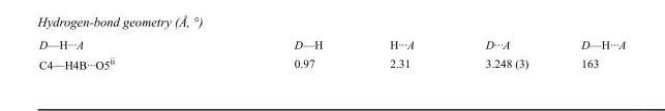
<table><tbody><tr><td>D—H···A</td><td>D—H</td><td>H···A</td><td>D···A</td><td>D—H···A</td></tr><tr><td>C4—H4B···O5<sup>ii</sup></td><td>0.97</td><td>2.31</td><td>3.248 (3)</td><td>163</td></tr></tbody></table>